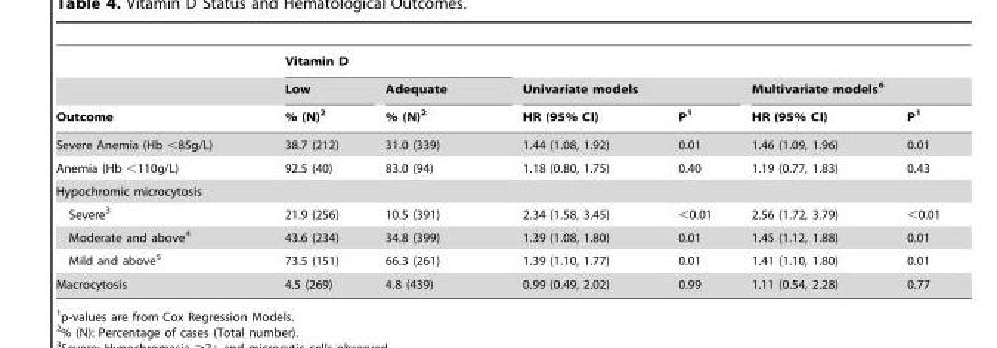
<table><thead><tr><td rowspan="3">Outcome</td><td colspan="2">Vitamin D</td><td></td><td></td><td></td><td></td></tr><tr><td rowspan="2">Low % (N)<sup>2</sup></td><td rowspan="2">Adequate % (N)<sup>2</sup></td><td colspan="2">Univariate models</td><td colspan="2">Multivariate models<sup>6</sup></td></tr><tr><td>HR (95% CI)</td><td>P<sup>1</sup></td><td>HR (95% CI)</td><td>P<sup>1</sup></td></tr></thead><tbody><tr><td>Severe Anemia (Hb &lt;85g/L)</td><td>38.7 (212)</td><td>31.0 (339)</td><td>1.44 (1.08, 1.92)</td><td>0.01</td><td>1.46 (1.09, 1.96)</td><td>0.01</td></tr><tr><td>Anemia (Hb &lt;110g/L)</td><td>92.5 (40)</td><td>83.0 (94)</td><td>1.18 (0.80, 1.75)</td><td>0.40</td><td>1.19 (0.77, 1.83)</td><td>0.43</td></tr><tr><td colspan="7">Hypochromic microcytosis</td></tr><tr><td>Severe<sup>3</sup></td><td>21.9 (256)</td><td>10.5 (391)</td><td>2.34 (1.58, 3.45)</td><td>&lt;0.01</td><td>2.56 (1.72, 3.79)</td><td>&lt;0.01</td></tr><tr><td>Moderate and above<sup>4</sup></td><td>43.6 (234)</td><td>34.8 (399)</td><td>1.39 (1.08, 1.80)</td><td>0.01</td><td>1.45 (1.12, 1.88)</td><td>0.01</td></tr><tr><td>Mild and above<sup>5</sup></td><td>73.5 (151)</td><td>66.3 (261)</td><td>1.39 (1.10, 1.77)</td><td>0.01</td><td>1.41 (1.10, 1.80)</td><td>0.01</td></tr><tr><td>Macrocytosis</td><td>4.5 (269)</td><td>4.8 (439)</td><td>0.99 (0.49, 2.02)</td><td>0.99</td><td>1.11 (0.54, 2.28)</td><td>0.77</td></tr></tbody></table>